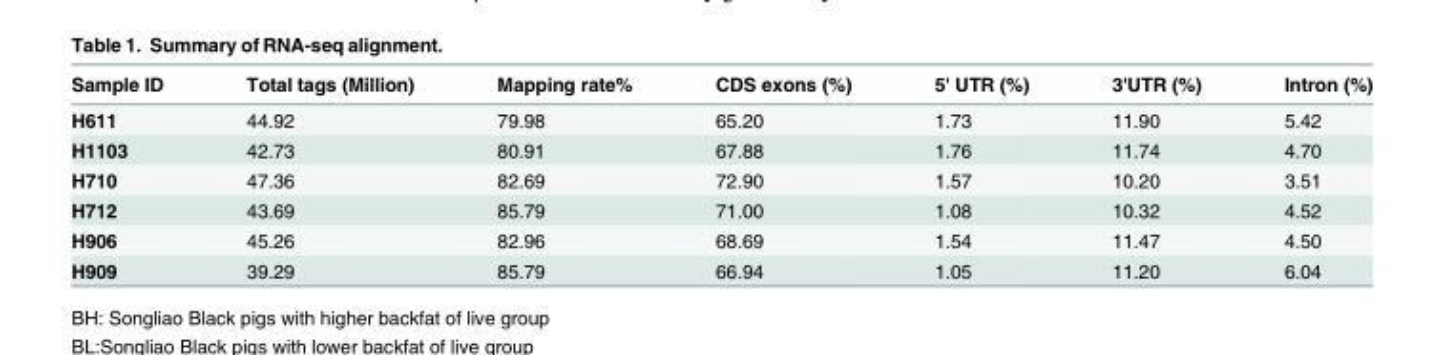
<table><thead><tr><td>Sample ID</td><td>Total tags (Million)</td><td>Mapping rate%</td><td>CDS exons (%)</td><td>5&#x27; UTR (%)</td><td>3&#x27;UTR (%)</td><td>Intron (%)</td></tr></thead><tbody><tr><td>H611</td><td>44.92</td><td>79.98</td><td>65.20</td><td>1.73</td><td>11.90</td><td>5.42</td></tr><tr><td>H1103</td><td>42.73</td><td>80.91</td><td>67.88</td><td>1.76</td><td>11.74</td><td>4.70</td></tr><tr><td>H710</td><td>47.36</td><td>82.69</td><td>72.90</td><td>1.57</td><td>10.20</td><td>3.51</td></tr><tr><td>H712</td><td>43.69</td><td>85.79</td><td>71.00</td><td>1.08</td><td>10.32</td><td>4.52</td></tr><tr><td>H906</td><td>45.26</td><td>82.96</td><td>68.69</td><td>1.54</td><td>11.47</td><td>4.50</td></tr><tr><td>H909</td><td>39.29</td><td>85.79</td><td>66.94</td><td>1.05</td><td>11.20</td><td>6.04</td></tr></tbody></table>